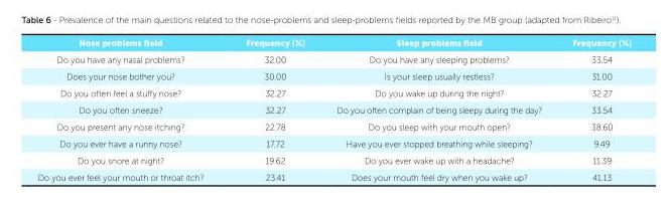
<table><thead><tr><td>Nose problems field</td><td>Frequency (%)</td><td>Sleep problems field</td><td>Frequency (%)</td></tr></thead><tbody><tr><td>Do you have any nasal problems?</td><td>32.00</td><td>Do you have any sleeping problems?</td><td>33.54</td></tr><tr><td>Does your nose bother you?</td><td>30.00</td><td>Is your sleep usually restless?</td><td>31.00</td></tr><tr><td>Do you often feel a stuffy nose?</td><td>32.27</td><td>Do you wake up during the night?</td><td>32.27</td></tr><tr><td>Do you often sneeze?</td><td>32.27</td><td>Do you often complain of being sleepy during the day?</td><td>33.54</td></tr><tr><td>Do you present any nose itching?</td><td>22.78</td><td>Do you sleep with your mouth open?</td><td>38.60</td></tr><tr><td>Do you ever have a runny nose?</td><td>17.72</td><td>Have you ever stopped breathing while sleeping?</td><td>9.49</td></tr><tr><td>Do you snore at night?</td><td>19.62</td><td>Do you ever wake up with a headache?</td><td>11.39</td></tr><tr><td>Do you ever feel your mouth or throat itch?</td><td>23.41</td><td>Does your mouth feel dry when you wake up?</td><td>41.13</td></tr></tbody></table>